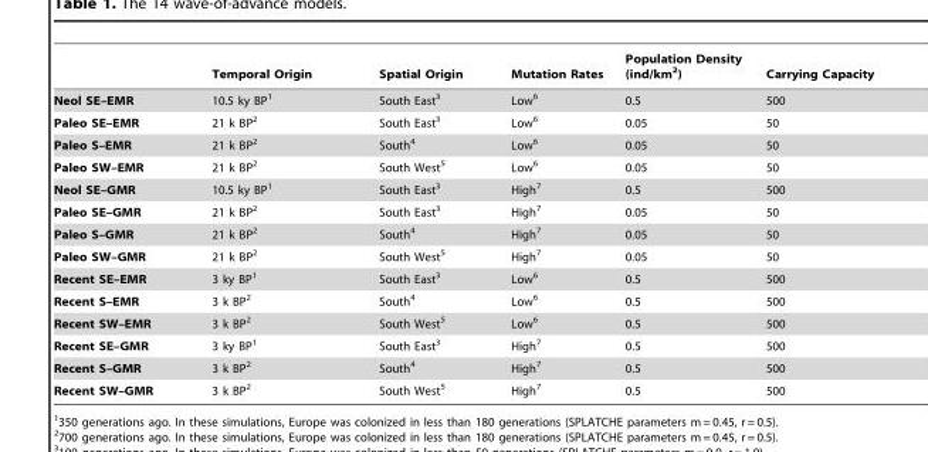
<table><thead><tr><td></td><td>Temporal Origin</td><td>Spatial Origin</td><td>Mutation Rates</td><td>Population Density (ind/km<sup>2</sup>)</td><td>Carrying Capacity</td></tr></thead><tbody><tr><td>Neol SE–EMR</td><td>10.5 ky BP<sup>1</sup></td><td>South East<sup>3</sup></td><td>Low<sup>6</sup></td><td>0.5</td><td>500</td></tr><tr><td>Paleo SE–EMR</td><td>21 k BP<sup>2</sup></td><td>South East<sup>3</sup></td><td>Low<sup>6</sup></td><td>0.05</td><td>50</td></tr><tr><td>Paleo S–EMR</td><td>21 k BP<sup>2</sup></td><td>South<sup>4</sup></td><td>Low<sup>6</sup></td><td>0.05</td><td>50</td></tr><tr><td>Paleo SW–EMR</td><td>21 k BP<sup>2</sup></td><td>South West<sup>5</sup></td><td>Low<sup>6</sup></td><td>0.05</td><td>50</td></tr><tr><td>Neol SE–GMR</td><td>10.5 ky BP<sup>1</sup></td><td>South East<sup>3</sup></td><td>High<sup>7</sup></td><td>0.5</td><td>500</td></tr><tr><td>Paleo SE–GMR</td><td>21 k BP<sup>2</sup></td><td>South East<sup>3</sup></td><td>High<sup>7</sup></td><td>0.05</td><td>50</td></tr><tr><td>Paleo S–GMR</td><td>21 k BP<sup>2</sup></td><td>South<sup>4</sup></td><td>High<sup>7</sup></td><td>0.05</td><td>50</td></tr><tr><td>Paleo SW–GMR</td><td>21 k BP<sup>2</sup></td><td>South West<sup>5</sup></td><td>High<sup>7</sup></td><td>0.05</td><td>50</td></tr><tr><td>Recent SE–EMR</td><td>3 ky BP<sup>1</sup></td><td>South East<sup>3</sup></td><td>Low<sup>6</sup></td><td>0.5</td><td>500</td></tr><tr><td>Recent S–EMR</td><td>3 k BP<sup>2</sup></td><td>South<sup>4</sup></td><td>Low<sup>6</sup></td><td>0.5</td><td>500</td></tr><tr><td>Recent SW–EMR</td><td>3 k BP<sup>2</sup></td><td>South West<sup>5</sup></td><td>Low<sup>6</sup></td><td>0.5</td><td>500</td></tr><tr><td>Recent SE–GMR</td><td>3 ky BP<sup>1</sup></td><td>South East<sup>3</sup></td><td>High<sup>7</sup></td><td>0.5</td><td>500</td></tr><tr><td>Recent S–GMR</td><td>3 k BP<sup>2</sup></td><td>South<sup>4</sup></td><td>High<sup>7</sup></td><td>0.5</td><td>500</td></tr><tr><td>Recent SW–GMR</td><td>3 k BP<sup>2</sup></td><td>South West<sup>5</sup></td><td>High<sup>7</sup></td><td>0.5</td><td>500</td></tr></tbody></table>